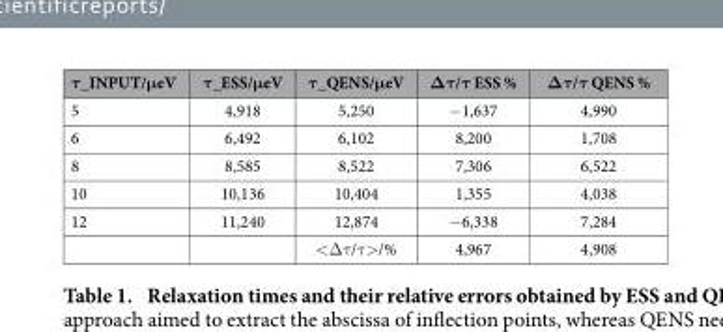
<table><thead><tr><td>τ_INPUT/μeV</td><td>τ_ESS/μeV</td><td>τ_QENS/μeV</td><td>Δτ/τ ESS %</td><td>Δτ/τ QENS %</td></tr></thead><tbody><tr><td>5</td><td>4,918</td><td>5,250</td><td>− 1,637</td><td>4,990</td></tr><tr><td>6</td><td>6,492</td><td>6,102</td><td>8,200</td><td>1,708</td></tr><tr><td>8</td><td>8,585</td><td>8,522</td><td>7,306</td><td>6,522</td></tr><tr><td>10</td><td>10,136</td><td>10,404</td><td>1,355</td><td>4,038</td></tr><tr><td rowspan="2">12</td><td>11,240</td><td>12,874</td><td>− 6,338</td><td>7,284</td></tr><tr><td></td><td>&lt; Δ τ /τ &gt; /%</td><td>4,967</td><td>4,908</td></tr></tbody></table>